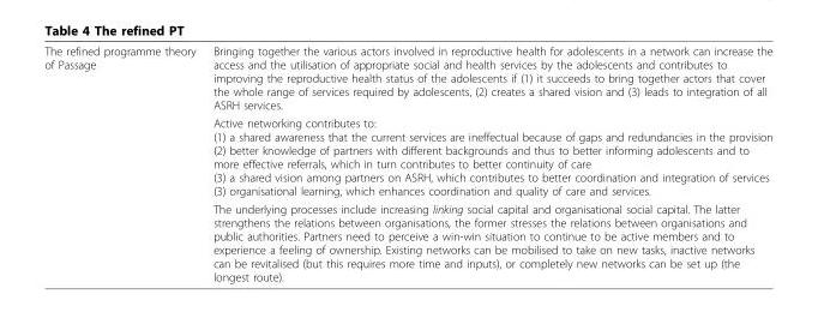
<table><tbody><tr><td rowspan="3">The refined programme theory of Passage</td><td>Bringing together the various actors involved in reproductive health for adolescents in a network can increase the access and the utilisation of appropriate social and health services by the adolescents and contributes to improving the reproductive health status of the adolescents if (1) it succeeds to bring together actors that cover the whole range of services required by adolescents, (2) creates a shared vision and (3) leads to integration of all ASRH services.</td></tr><tr><td>Active networking contributes to: (1) a shared awareness that the current services are ineffectual because of gaps and redundancies in the provision (2) better knowledge of partners with different backgrounds and thus to better informing adolescents and to more effective referrals, which in turn contributes to better continuity of care (3) a shared vision among partners on ASRH, which contributes to better coordination and integration of services (3) organisational learning, which enhances coordination and quality of care and services.</td></tr><tr><td>The underlying processes include increasing linking social capital and organisational social capital. The latter strengthens the relations between organisations, the former stresses the relations between organisations and public authorities. Partners need to perceive a win-win situation to continue to be active members and to experience a feeling of ownership. Existing networks can be mobilised to take on new tasks, inactive networks can be revitalised (but this requires more time and inputs), or completely new networks can be set up (the longest route).</td></tr></tbody></table>